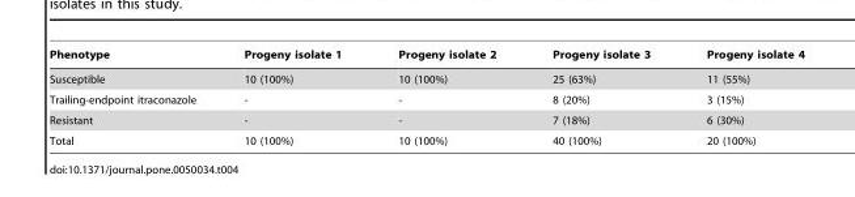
<table><thead><tr><td>Phenotype</td><td>Progeny isolate 1</td><td>Progeny isolate 2</td><td>Progeny isolate 3</td><td>Progeny isolate 4</td></tr></thead><tbody><tr><td>Susceptible</td><td>10 (100%)</td><td>10 (100%)</td><td>25 (63%)</td><td>11 (55%)</td></tr><tr><td>Trailing-endpoint itraconazole</td><td>-</td><td>-</td><td>8 (20%)</td><td>3 (15%)</td></tr><tr><td>Resistant</td><td>-</td><td>-</td><td>7 (18%)</td><td>6 (30%)</td></tr><tr><td>Total</td><td>10 (100%)</td><td>10 (100%)</td><td>40 (100%)</td><td>20 (100%)</td></tr></tbody></table>